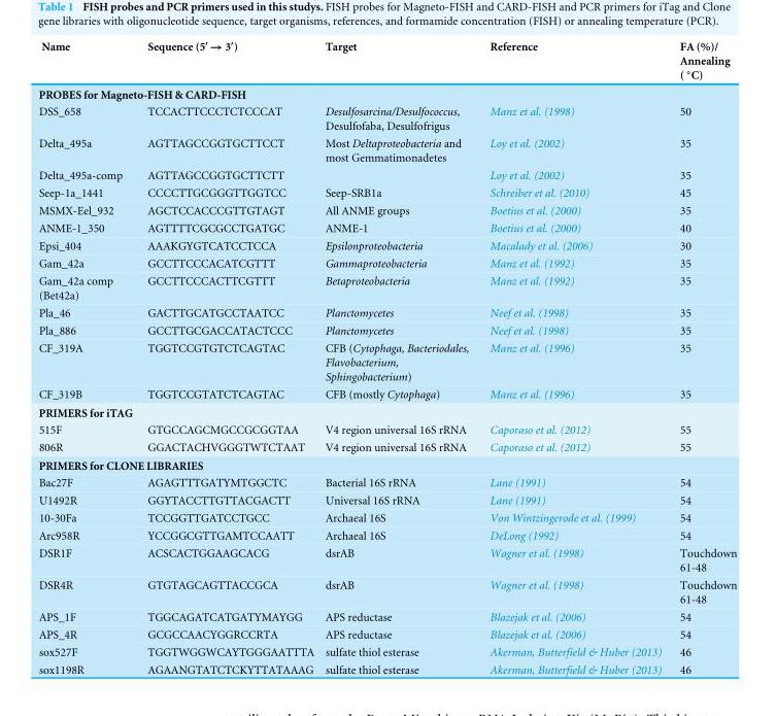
<table><thead><tr><td>Name</td><td>Sequence (5′ → 3′)</td><td>Target</td><td>Reference</td><td>FA (%)/ Annealing ( ◦C)</td></tr></thead><tbody><tr><td colspan="5">PROBES for Magneto-FISH &amp; CARD-FISH</td></tr><tr><td>DSS_658</td><td>TCCACTTCCCTCTCCCAT</td><td>Desulfosarcina/Desulfococcus, Desulfofaba, Desulfofrigus</td><td>Manz et al. (1998)</td><td>50</td></tr><tr><td>Delta_495a</td><td>AGTTAGCCGGTGCTTCCT</td><td>Most Deltaproteobacteria and most Gemmatimonadetes</td><td>Loy et al. (2002)</td><td>35</td></tr><tr><td>Delta_495a-comp</td><td>AGTTAGCCGGTGCTTCTT</td><td></td><td>Loy et al. (2002)</td><td>35</td></tr><tr><td>Seep-1a_1441</td><td>CCCCTTGCGGGTTGGTCC</td><td>Seep-SRB1a</td><td>Schreiber et al. (2010)</td><td>45</td></tr><tr><td>MSMX-Eel_932</td><td>AGCTCCACCCGTTGTAGT</td><td>All ANME groups</td><td>Boetius et al. (2000)</td><td>35</td></tr><tr><td>ANME-1_350</td><td>AGTTTTCGCGCCTGATGC</td><td>ANME-1</td><td>Boetius et al. (2000)</td><td>40</td></tr><tr><td>Epsi_404</td><td>AAAKGYGTCATCCTCCA</td><td>Epsilonproteobacteria</td><td>Macalady et al. (2006)</td><td>30</td></tr><tr><td>Gam_42a</td><td>GCCTTCCCACATCGTTT</td><td>Gammaproteobacteria</td><td>Manz et al. (1992)</td><td>35</td></tr><tr><td>Gam_42a comp (Bet42a)</td><td>GCCTTCCCACTTCGTTT</td><td>Betaproteobacteria</td><td>Manz et al. (1992)</td><td>35</td></tr><tr><td>Pla_46</td><td>GACTTGCATGCCTAATCC</td><td>Planctomycetes</td><td>Neef et al. (1998)</td><td>35</td></tr><tr><td>Pla_886</td><td>GCCTTGCGACCATACTCCC</td><td>Planctomycetes</td><td>Neef et al. (1998)</td><td>35</td></tr><tr><td>CF_319A</td><td>TGGTCCGTGTCTCAGTAC</td><td>CFB (Cytophaga, Bacteriodales, Flavobacterium, Sphingobacterium)</td><td>Manz et al. (1996)</td><td>35</td></tr><tr><td>CF_319B</td><td>TGGTCCGTATCTCAGTAC</td><td>CFB (mostly Cytophaga)</td><td>Manz et al. (1996)</td><td>35</td></tr><tr><td colspan="5">PRIMERS for iTAG</td></tr><tr><td>515F</td><td>GTGCCAGCMGCCGCGGTAA</td><td>V4 region universal 16S rRNA</td><td>Caporaso et al. (2012)</td><td>55</td></tr><tr><td>806R</td><td>GGACTACHVGGGTWTCTAAT</td><td>V4 region universal 16S rRNA</td><td>Caporaso et al. (2012)</td><td>55</td></tr><tr><td colspan="5">PRIMERS for CLONE LIBRARIES</td></tr><tr><td>Bac27F</td><td>AGAGTTTGATYMTGGCTC</td><td>Bacterial 16S rRNA</td><td>Lane (1991)</td><td>54</td></tr><tr><td>U1492R</td><td>GGYTACCTTGTTACGACTT</td><td>Universal 16S rRNA</td><td>Lane (1991)</td><td>54</td></tr><tr><td>10-30Fa</td><td>TCCGGTTGATCCTGCC</td><td>Archaeal 16S</td><td>Von Wintzingerode et al. (1999)</td><td>54</td></tr><tr><td>Arc958R</td><td>YCCGGCGTTGAMTCCAATT</td><td>Archaeal 16S</td><td>DeLong (1992)</td><td>54</td></tr><tr><td>DSR1F</td><td>ACSCACTGGAAGCACG</td><td>dsrAB</td><td>Wagner et al. (1998)</td><td>Touchdown 61-48</td></tr><tr><td>DSR4R</td><td>GTGTAGCAGTTACCGCA</td><td>dsrAB</td><td>Wagner et al. (1998)</td><td>Touchdown 61-48</td></tr><tr><td>APS_1F</td><td>TGGCAGATCATGATYMAYGG</td><td>APS reductase</td><td>Blazejak et al. (2006)</td><td>54</td></tr><tr><td>APS_4R</td><td>GCGCCAACYGGRCCRTA</td><td>APS reductase</td><td>Blazejak et al. (2006)</td><td>54</td></tr><tr><td>sox527F</td><td>TGGTWGGWCAYTGGGAATTTA</td><td>sulfate thiol esterase</td><td>Akerman, Butterfield &amp; Huber (2013)</td><td>46</td></tr><tr><td>sox1198R</td><td>AGAANGTATCTCKYTTATAAAG</td><td>sulfate thiol esterase</td><td>Akerman, Butterfield &amp; Huber (2013)</td><td>46</td></tr></tbody></table>